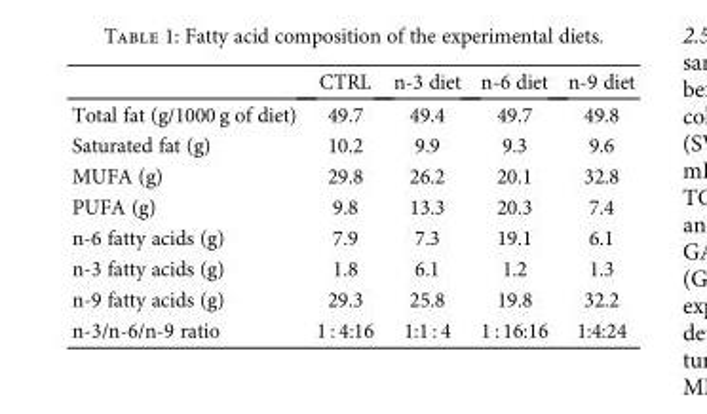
<table><thead><tr><td></td><td>CTRL</td><td>n-3 diet</td><td>n-6 diet</td><td>n-9 diet</td></tr></thead><tbody><tr><td>Total fat (g/1000 g of diet)</td><td>49.7</td><td>49.4</td><td>49.7</td><td>49.8</td></tr><tr><td>Saturated fat (g)</td><td>10.2</td><td>9.9</td><td>9.3</td><td>9.6</td></tr><tr><td>MUFA (g)</td><td>29.8</td><td>26.2</td><td>20.1</td><td>32.8</td></tr><tr><td>PUFA (g)</td><td>9.8</td><td>13.3</td><td>20.3</td><td>7.4</td></tr><tr><td>n-6 fatty acids (g)</td><td>7.9</td><td>7.3</td><td>19.1</td><td>6.1</td></tr><tr><td>n-3 fatty acids (g)</td><td>1.8</td><td>6.1</td><td>1.2</td><td>1.3</td></tr><tr><td>n-9 fatty acids (g)</td><td>29.3</td><td>25.8</td><td>19.8</td><td>32.2</td></tr><tr><td>n-3/n-6/n-9 ratio</td><td>1 : 4:16</td><td>1:1 : 4</td><td>1 : 16:16</td><td>1:4:24</td></tr></tbody></table>